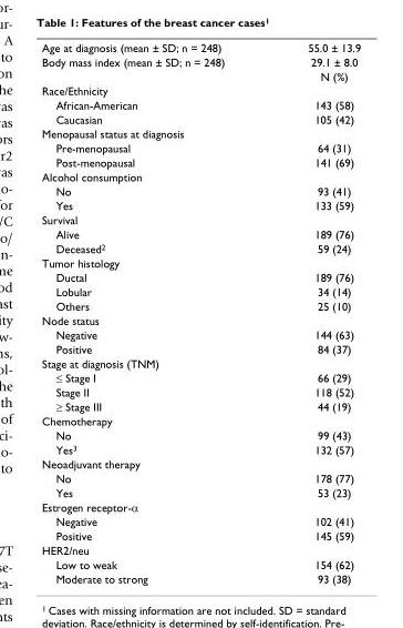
<table><tbody><tr><td>Age at diagnosis (mean ± SD; n = 248)</td><td>55.0 ± 13.9</td></tr><tr><td rowspan="2">Body mass index (mean ± SD; n = 248)</td><td>29.1 ± 8.0</td></tr><tr><td>N (%)</td></tr><tr><td colspan="2">Race/Ethnicity</td></tr><tr><td>African-American</td><td>143 (58)</td></tr><tr><td>Caucasian</td><td>105 (42)</td></tr><tr><td colspan="2">Menopausal status at diagnosis</td></tr><tr><td>Pre-menopausal</td><td>64 (31)</td></tr><tr><td>Post-menopausal</td><td>141 (69)</td></tr><tr><td colspan="2">Alcohol consumption</td></tr><tr><td>No</td><td>93 (41)</td></tr><tr><td>Yes</td><td>133 (59)</td></tr><tr><td colspan="2">Survival</td></tr><tr><td>Alive</td><td>189 (76)</td></tr><tr><td>Deceased2</td><td>59 (24)</td></tr><tr><td colspan="2">Tumor histology</td></tr><tr><td>Ductal</td><td>189 (76)</td></tr><tr><td>Lobular</td><td>34 (14)</td></tr><tr><td>Others</td><td>25 (10)</td></tr><tr><td colspan="2">Node status</td></tr><tr><td>Negative</td><td>144 (63)</td></tr><tr><td>Positive</td><td>84 (37)</td></tr><tr><td colspan="2">Stage at diagnosis (TNM)</td></tr><tr><td>≤ Stage I</td><td>66 (29)</td></tr><tr><td>Stage II</td><td>118 (52)</td></tr><tr><td>≥ Stage III</td><td>44 (19)</td></tr><tr><td colspan="2">Chemotherapy</td></tr><tr><td>No</td><td>99 (43)</td></tr><tr><td>Yes3</td><td>132 (57)</td></tr><tr><td colspan="2">Neoadjuvant therapy</td></tr><tr><td>No</td><td>178 (77)</td></tr><tr><td>Yes</td><td>53 (23)</td></tr><tr><td colspan="2">Estrogen receptor-α</td></tr><tr><td>Negative</td><td>102 (41)</td></tr><tr><td>Positive</td><td>145 (59)</td></tr><tr><td colspan="2">HER2/neu</td></tr><tr><td>Low to weak</td><td>154 (62)</td></tr><tr><td>Moderate to strong</td><td>93 (38)</td></tr></tbody></table>